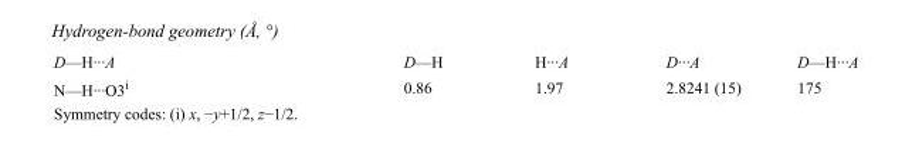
<table><tbody><tr><td>D—H···A</td><td>D—H</td><td>H···A</td><td>D···A</td><td>D—H···A</td></tr><tr><td>N—H···O3<sup>i</sup></td><td>0.86</td><td>1.97</td><td>2.8241 (15)</td><td>175</td></tr></tbody></table>